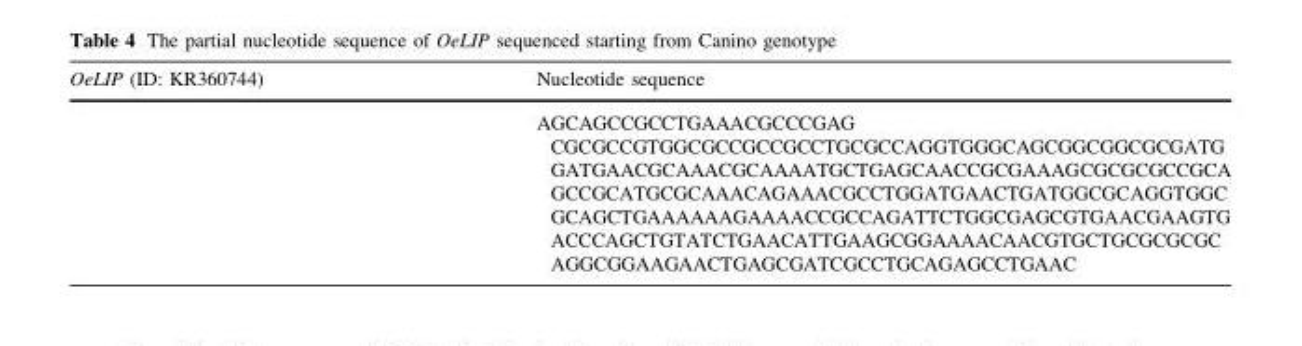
<table><thead><tr><td>OeLIP (ID: KR360744)</td><td>Nucleotide sequence</td></tr></thead><tbody><tr><td></td><td>AGCAGCCGCCTGAAACGCCCGAG CGCGCCGTGGCGCCGCCGCCTGCGCCAGGTGGGCAGCGGCGGCGCGATG GATGAACGCAAACGCAAAATGCTGAGCAACCGCGAAAGCGCGCGCCGCA GCCGCATGCGCAAACAGAAACGCCTGGATGAACTGATGGCGCAGGTGGC GCAGCTGAAAAAAGAAAACCGCCAGATTCTGGCGAGCGTGAACGAAGTG ACCCAGCTGTATCTGAACATTGAAGCGGAAAACAACGTGCTGCGCGCGC AGGCGGAAGAACTGAGCGATCGCCTGCAGAGCCTGAAC</td></tr></tbody></table>